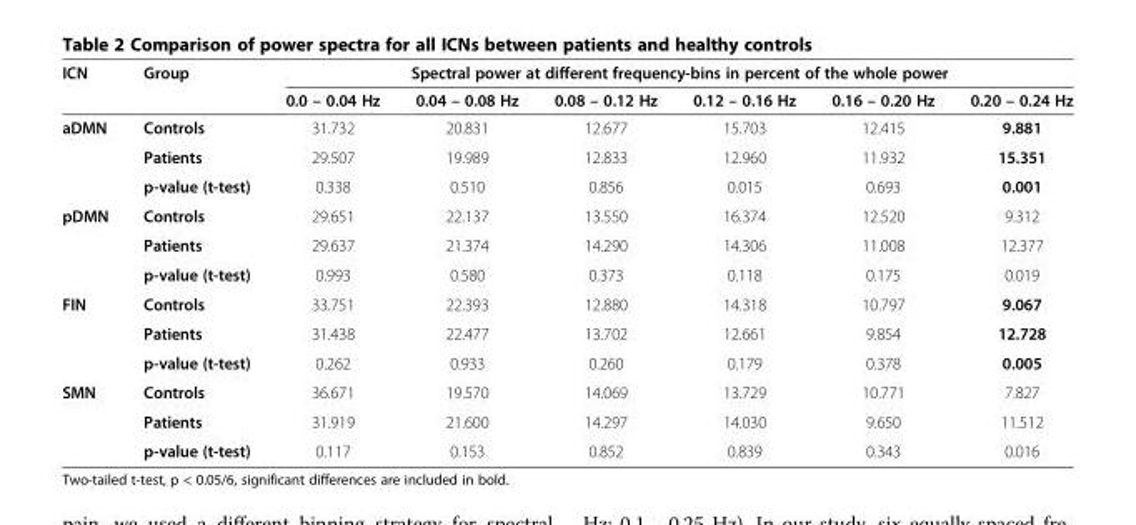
<table><thead><tr><td rowspan="2">ICN</td><td rowspan="2">Group</td><td colspan="6">Spectral power at different frequency-bins in percent of the whole power</td></tr><tr><td>0.0 – 0.04 Hz</td><td>0.04 – 0.08 Hz</td><td>0.08 – 0.12 Hz</td><td>0.12 – 0.16 Hz</td><td>0.16 – 0.20 Hz</td><td>0.20 – 0.24 Hz</td></tr></thead><tbody><tr><td rowspan="3">aDMN</td><td>Controls</td><td>31.732</td><td>20.831</td><td>12.677</td><td>15.703</td><td>12.415</td><td>9.881</td></tr><tr><td>Patients</td><td>29.507</td><td>19.989</td><td>12.833</td><td>12.960</td><td>11.932</td><td>15.351</td></tr><tr><td>p-value (t-test)</td><td>0.338</td><td>0.510</td><td>0.856</td><td>0.015</td><td>0.693</td><td>0.001</td></tr><tr><td rowspan="3">pDMN</td><td>Controls</td><td>29.651</td><td>22.137</td><td>13.550</td><td>16.374</td><td>12.520</td><td>9.312</td></tr><tr><td>Patients</td><td>29.637</td><td>21.374</td><td>14.290</td><td>14.306</td><td>11.008</td><td>12.377</td></tr><tr><td>p-value (t-test)</td><td>0.993</td><td>0.580</td><td>0.373</td><td>0.118</td><td>0.175</td><td>0.019</td></tr><tr><td rowspan="3">FIN</td><td>Controls</td><td>33.751</td><td>22.393</td><td>12.880</td><td>14.318</td><td>10.797</td><td>9.067</td></tr><tr><td>Patients</td><td>31.438</td><td>22.477</td><td>13.702</td><td>12.661</td><td>9.854</td><td>12.728</td></tr><tr><td>p-value (t-test)</td><td>0.262</td><td>0.933</td><td>0.260</td><td>0.179</td><td>0.378</td><td>0.005</td></tr><tr><td rowspan="3">SMN</td><td>Controls</td><td>36.671</td><td>19.570</td><td>14.069</td><td>13.729</td><td>10.771</td><td>7.827</td></tr><tr><td>Patients</td><td>31.919</td><td>21.600</td><td>14.297</td><td>14.030</td><td>9.650</td><td>11.512</td></tr><tr><td>p-value (t-test)</td><td>0.117</td><td>0.153</td><td>0.852</td><td>0.839</td><td>0.343</td><td>0.016</td></tr></tbody></table>